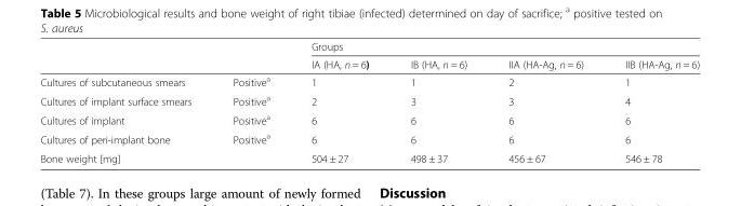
<table><thead><tr><td rowspan="2"></td><td rowspan="2"></td><td colspan="4">Groups</td></tr><tr><td>IA (HA, n = 6)</td><td>IB (HA, n = 6)</td><td>IIA (HA-Ag, n = 6)</td><td>IIB (HA-Ag, n = 6)</td></tr></thead><tbody><tr><td>Cultures of subcutaneous smears</td><td>Positive<sup>a</sup></td><td>1</td><td>1</td><td>2</td><td>1</td></tr><tr><td>Cultures of implant surface smears</td><td>Positive<sup>a</sup></td><td>2</td><td>3</td><td>3</td><td>4</td></tr><tr><td>Cultures of implant</td><td>Positive<sup>a</sup></td><td>6</td><td>6</td><td>6</td><td>6</td></tr><tr><td>Cultures of peri-implant bone</td><td>Positive<sup>a</sup></td><td>6</td><td>6</td><td>6</td><td>6</td></tr><tr><td>Bone weight [mg]</td><td></td><td>504 ± 27</td><td>498 ± 37</td><td>456 ± 67</td><td>546 ± 78</td></tr></tbody></table>